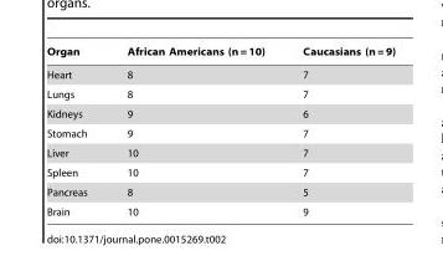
<table><thead><tr><td>Organ</td><td>African Americans (n = 10)</td><td>Caucasians (n = 9)</td></tr></thead><tbody><tr><td>Heart</td><td>8</td><td>7</td></tr><tr><td>Lungs</td><td>8</td><td>7</td></tr><tr><td>Kidneys</td><td>9</td><td>6</td></tr><tr><td>Stomach</td><td>9</td><td>7</td></tr><tr><td>Liver</td><td>10</td><td>7</td></tr><tr><td>Spleen</td><td>10</td><td>7</td></tr><tr><td>Pancreas</td><td>8</td><td>5</td></tr><tr><td>Brain</td><td>10</td><td>9</td></tr></tbody></table>